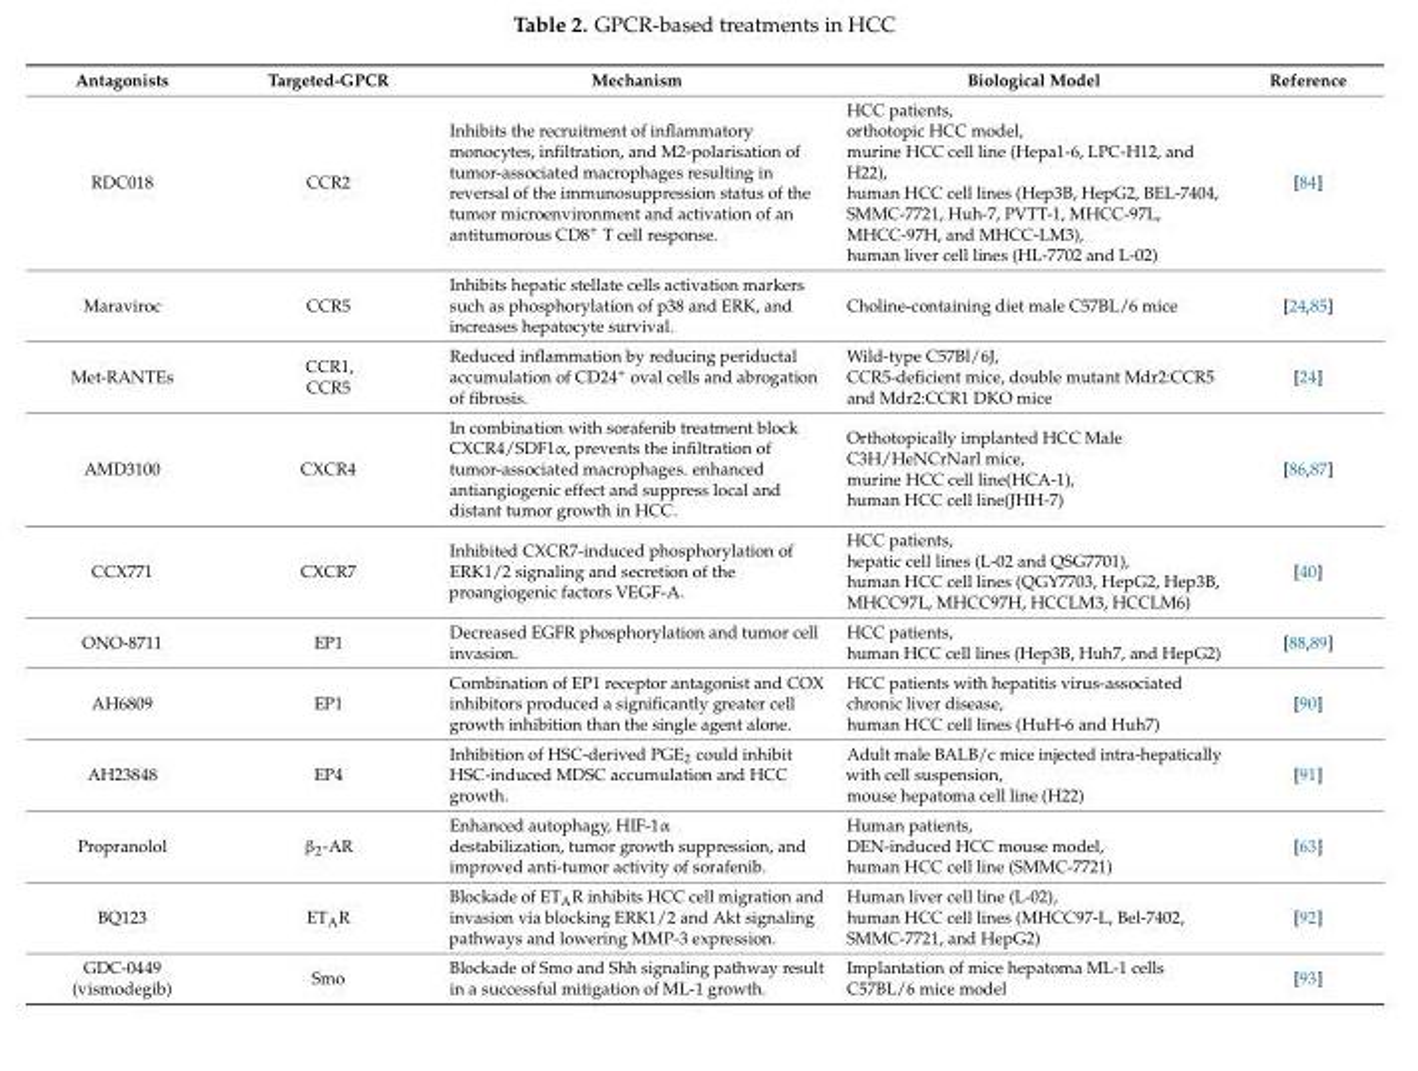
<table><thead><tr><td>Antagonists</td><td>Targeted-GPCR</td><td>Mechanism</td><td>Biological Model</td><td>Reference</td></tr></thead><tbody><tr><td>RDC018</td><td>CCR2</td><td>Inhibits the recruitment of inflammatory monocytes, infiltration, and M2-polarisation of tumor-associated macrophages resulting in reversal of the immunosuppression status of the tumor microenvironment and activation of an antitumorous CD8<sup>+</sup> T cell response.</td><td>HCC patients, orthotopic HCC model, murine HCC cell line (Hepa1-6, LPC-H12, and H22), human HCC cell lines (Hep3B, HepG2, BEL-7404, SMMC-7721, Huh-7, PVTT-1, MHCC-97L, MHCC-97H, and MHCC-LM3), human liver cell lines (HL-7702 and L-02)</td><td>[84]</td></tr><tr><td>Maraviroc</td><td>CCR5</td><td>Inhibits hepatic stellate cells activation markers such as phosphorylation of p38 and ERK, and increases hepatocyte survival.</td><td>Choline-containing diet male C57BL/6 mice</td><td>[24,85]</td></tr><tr><td>Met-RANTEs</td><td>CCR1, CCR5</td><td>Reduced inflammation by reducing periductal accumulation of CD24<sup>+</sup> oval cells and abrogation of fibrosis.</td><td>Wild-type C57Bl/6J, CCR5-deficient mice, double mutant Mdr2:CCR5 and Mdr2:CCR1 DKO mice</td><td>[24]</td></tr><tr><td>AMD3100</td><td>CXCR4</td><td>In combination with sorafenib treatment block CXCR4/SDF1α, prevents the infiltration of tumor-associated macrophages. enhanced antiangiogenic effect and suppress local and distant tumor growth in HCC.</td><td>Orthotopically implanted HCC Male C3H/HeNCrNarl mice, murine HCC cell line(HCA-1), human HCC cell line(JHH-7)</td><td>[86,87]</td></tr><tr><td>CCX771</td><td>CXCR7</td><td>Inhibited CXCR7-induced phosphorylation of ERK1/2 signaling and secretion of the proangiogenic factors VEGF-A.</td><td>HCC patients, hepatic cell lines (L-02 and QSG7701), human HCC cell lines (QGY7703, HepG2, Hep3B, MHCC97L, MHCC97H, HCCLM3, HCCLM6)</td><td>[40]</td></tr><tr><td>ONO-8711</td><td>EP1</td><td>Decreased EGFR phosphorylation and tumor cell invasion.</td><td>HCC patients, human HCC cell lines (Hep3B, Huh7, and HepG2)</td><td>[88,89]</td></tr><tr><td>AH6809</td><td>EP1</td><td>Combination of EP1 receptor antagonist and COX inhibitors produced a significantly greater cell growth inhibition than the single agent alone.</td><td>HCC patients with hepatitis virus-associated chronic liver disease, human HCC cell lines (HuH-6 and Huh7)</td><td>[90]</td></tr><tr><td>AH23848</td><td>EP4</td><td>Inhibition of HSC-derived PGE<sub>2</sub> could inhibit HSC-induced MDSC accumulation and HCC growth.</td><td>Adult male BALB/c mice injected intra-hepatically with cell suspension, mouse hepatoma cell line (H22)</td><td>[91]</td></tr><tr><td>Propranolol</td><td>β<sub>2</sub>-AR</td><td>Enhanced autophagy, HIF-1α destabilization, tumor growth suppression, and improved anti-tumor activity of sorafenib.</td><td>Human patients, DEN-induced HCC mouse model, human HCC cell line (SMMC-7721)</td><td>[63]</td></tr><tr><td>BQ123</td><td>ET<sub>A</sub>R</td><td>Blockade of ET<sub>A</sub>R inhibits HCC cell migration and invasion via blocking ERK1/2 and Akt signaling pathways and lowering MMP-3 expression.</td><td>Human liver cell line (L-02), human HCC cell lines (MHCC97-L, Bel-7402, SMMC-7721, and HepG2)</td><td>[92]</td></tr><tr><td>GDC-0449 (vismodegib)</td><td>Smo</td><td>Blockade of Smo and Shh signaling pathway result in a successful mitigation of ML-1 growth.</td><td>Implantation of mice hepatoma ML-1 cells C57BL/6 mice model</td><td>[93]</td></tr></tbody></table>